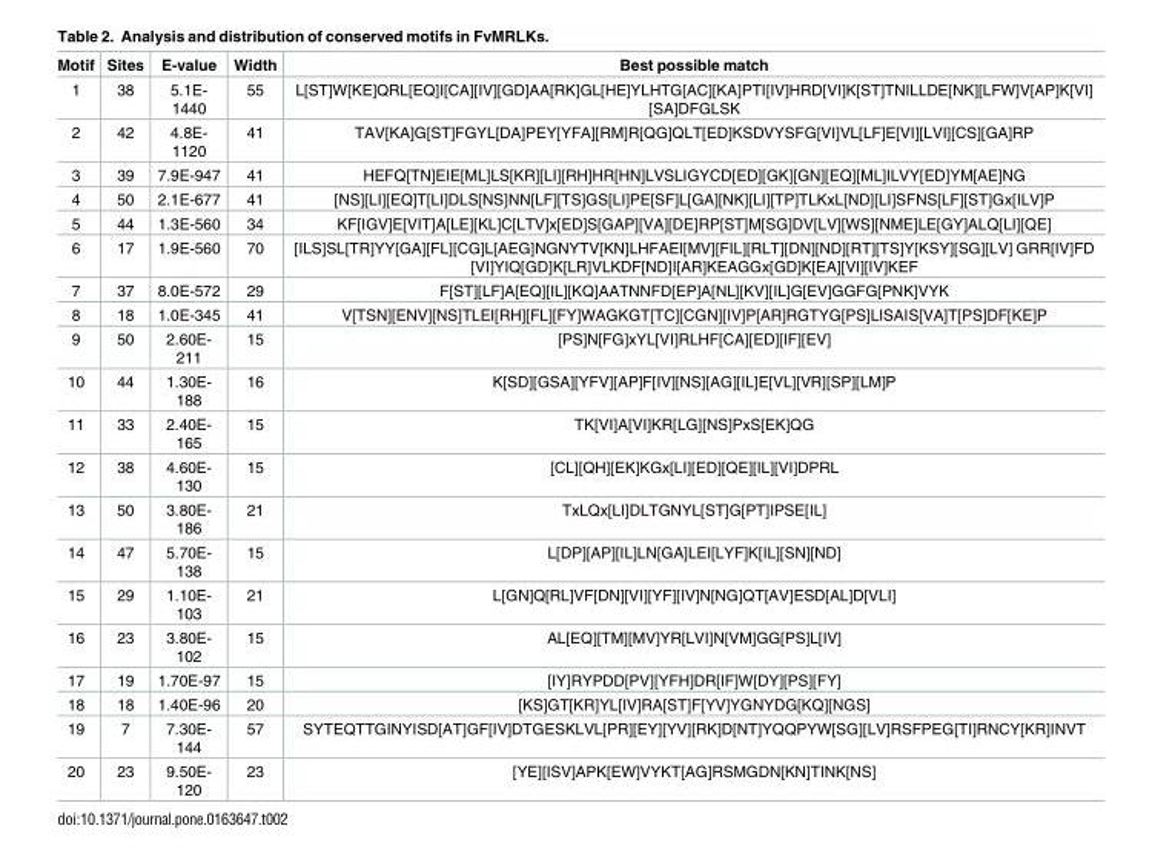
<table><thead><tr><td>Motif</td><td>Sites</td><td>E-value</td><td>Width</td><td>Best possible match</td></tr></thead><tbody><tr><td>1</td><td>38</td><td>5.1E- 1440</td><td>55</td><td>L[ST]W[KE]QRL[EQ]I[CA][IV][GD]AA[RK]GL[HE]YLHTG[AC][KA]PTI[IV]HRD[VI]K[ST]TNILLDE[NK][LFW]V[AP]K[VI] [SA]DFGLSK</td></tr><tr><td>2</td><td>42</td><td>4.8E- 1120</td><td>41</td><td>TAV[KA]G[ST]FGYL[DA]PEY[YFA][RM]R[QG]QLT[ED]KSDVYSFG[VI]VL[LF]E[VI][LVI][CS][GA]RP</td></tr><tr><td>3</td><td>39</td><td>7.9E-947</td><td>41</td><td>HEFQ[TN]EIE[ML]LS[KR][LI][RH]HR[HN]LVSLIGYCD[ED][GK][GN][EQ][ML]ILVY[ED]YM[AE]NG</td></tr><tr><td>4</td><td>50</td><td>2.1E-677</td><td>41</td><td>[NS][LI][EQ]T[LI]DLS[NS]NN[LF][TS]GS[LI]PE[SF]L[GA][NK][LI][TP]TLKxL[ND][LI]SFNS[LF][ST]Gx[ILV]P</td></tr><tr><td>5</td><td>44</td><td>1.3E-560</td><td>34</td><td>KF[IGV]E[VIT]A[LE][KL]C[LTV]x[ED]S[GAP][VA][DE]RP[ST]M[SG]DV[LV][WS][NME]LE[GY]ALQ[LI][QE]</td></tr><tr><td>6</td><td>17</td><td>1.9E-560</td><td>70</td><td>[ILS]SL[TR]YY[GA][FL][CG]L[AEG]NGNYTV[KN]LHFAEI[MV][FIL][RLT][DN][ND][RT][TS]Y[KSY][SG][LV] GRR[IV]FD [VI]YIQ[GD]K[LR]VLKDF[ND]I[AR]KEAGGx[GD]K[EA][VI][IV]KEF</td></tr><tr><td>7</td><td>37</td><td>8.0E-572</td><td>29</td><td>F[ST][LF]A[EQ][IL][KQ]AATNNFD[EP]A[NL][KV][IL]G[EV]GGFG[PNK]VYK</td></tr><tr><td>8</td><td>18</td><td>1.0E-345</td><td>41</td><td>V[TSN][ENV][NS]TLEI[RH][FL][FY]WAGKGT[TC][CGN][IV]P[AR]RGTYG[PS]LISAIS[VA]T[PS]DF[KE]P</td></tr><tr><td>9</td><td>50</td><td>2.60E- 211</td><td>15</td><td>[PS]N[FG]xYL[VI]RLHF[CA][ED][IF][EV]</td></tr><tr><td>10</td><td>44</td><td>1.30E- 188</td><td>16</td><td>K[SD][GSA][YFV][AP]F[IV][NS][AG][IL]E[VL][VR][SP][LM]P</td></tr><tr><td>11</td><td>33</td><td>2.40E- 165</td><td>15</td><td>TK[VI]A[VI]KR[LG][NS]PxS[EK]QG</td></tr><tr><td>12</td><td>38</td><td>4.60E- 130</td><td>15</td><td>[CL][QH][EK]KGx[LI][ED][QE][IL][VI]DPRL</td></tr><tr><td>13</td><td>50</td><td>3.80E- 186</td><td>21</td><td>TxLQx[LI]DLTGNYL[ST]G[PT]IPSE[IL]</td></tr><tr><td>14</td><td>47</td><td>5.70E- 138</td><td>15</td><td>L[DP][AP][IL]LN[GA]LEI[LYF]K[IL][SN][ND]</td></tr><tr><td>15</td><td>29</td><td>1.10E- 103</td><td>21</td><td>L[GN]Q[RL]VF[DN][VI][YF][IV]N[NG]QT[AV]ESD[AL]D[VLI]</td></tr><tr><td>16</td><td>23</td><td>3.80E- 102</td><td>15</td><td>AL[EQ][TM][MV]YR[LVI]N[VM]GG[PS]L[IV]</td></tr><tr><td>17</td><td>19</td><td>1.70E-97</td><td>15</td><td>[IY]RYPDD[PV][YFH]DR[IF]W[DY][PS][FY]</td></tr><tr><td>18</td><td>18</td><td>1.40E-96</td><td>20</td><td>[KS]GT[KR]YL[IV]RA[ST]F[YV]YGNYDG[KQ][NGS]</td></tr><tr><td>19</td><td>7</td><td>7.30E- 144</td><td>57</td><td>SYTEQTTGINYISD[AT]GF[IV]DTGESKLVL[PR][EY][YV][RK]D[NT]YQQPYW[SG][LV]RSFPEG[TI]RNCY[KR]INVT</td></tr><tr><td>20</td><td>23</td><td>9.50E- 120</td><td>23</td><td>[YE][ISV]APK[EW]VYKT[AG]RSMGDN[KN]TINK[NS]</td></tr></tbody></table>